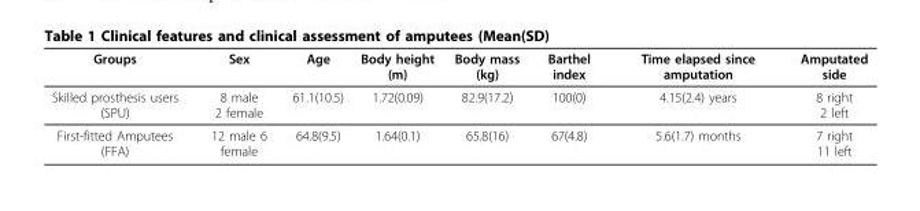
<table><thead><tr><td>Groups</td><td>Sex</td><td>Age</td><td>Body height (m)</td><td>Body mass (kg)</td><td>Barthel index</td><td>Time elapsed since amputation</td><td>Amputated side</td></tr></thead><tbody><tr><td>Skilled prosthesis users (SPU)</td><td>8 male 2 female</td><td>61.1(10.5)</td><td>1.72(0.09)</td><td>82.9(17.2)</td><td>100(0)</td><td>4.15(2.4) years</td><td>8 right 2 left</td></tr><tr><td>First-fitted Amputees (FFA)</td><td>12 male 6 female</td><td>64.8(9.5)</td><td>1.64(0.1)</td><td>65.8(16)</td><td>67(4.8)</td><td>5.6(1.7) months</td><td>7 right 11 left</td></tr></tbody></table>